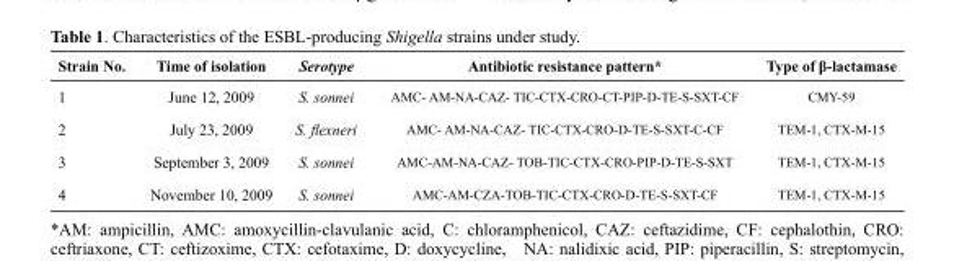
<table><thead><tr><td>Strain No.</td><td>Time of isolation</td><td>Serotype</td><td>Antibiotic resistance pattern*</td><td>Type of β-lactamase</td></tr></thead><tbody><tr><td>1</td><td>June 12, 2009</td><td>S. sonnei</td><td>AMC- AM-NA-CAZ- TIC-CTX-CRO-CT-PIP-D-TE-S-SXT-CF</td><td>CMY-59</td></tr><tr><td>2</td><td>July 23, 2009</td><td>S. flexneri</td><td>AMC- AM-NA-CAZ- TIC-CTX-CRO-D-TE-S-SXT-C-CF</td><td>TEM-1, CTX-M-15</td></tr><tr><td>3</td><td>September 3, 2009</td><td>S. sonnei</td><td>AMC-AM-NA-CAZ- TOB-TIC-CTX-CRO-PIP-D-TE-S-SXT</td><td>TEM-1, CTX-M-15</td></tr><tr><td>4</td><td>November 10, 2009</td><td>S. sonnei</td><td>AMC-AM-CZA-TOB-TIC-CTX-CRO-D-TE-S-SXT-CF</td><td>TEM-1, CTX-M-15</td></tr></tbody></table>